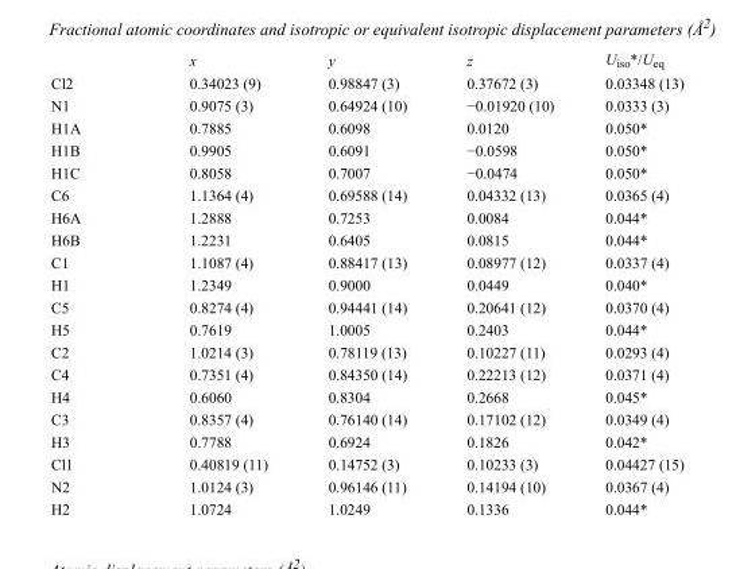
<table><thead><tr><td></td><td>x</td><td>y</td><td>z</td><td>U<sub>iso</sub>*/U<sub>eq</sub></td></tr></thead><tbody><tr><td>Cl2</td><td>0.34023 (9)</td><td>0.98847 (3)</td><td>0.37672 (3)</td><td>0.03348 (13)</td></tr><tr><td>N1</td><td>0.9075 (3)</td><td>0.64924 (10)</td><td>−0.01920 (10)</td><td>0.0333 (3)</td></tr><tr><td>H1A</td><td>0.7885</td><td>0.6098</td><td>0.0120</td><td>0.050*</td></tr><tr><td>H1B</td><td>0.9905</td><td>0.6091</td><td>−0.0598</td><td>0.050*</td></tr><tr><td>H1C</td><td>0.8058</td><td>0.7007</td><td>−0.0474</td><td>0.050*</td></tr><tr><td>C6</td><td>1.1364 (4)</td><td>0.69588 (14)</td><td>0.04332 (13)</td><td>0.0365 (4)</td></tr><tr><td>H6A</td><td>1.2888</td><td>0.7253</td><td>0.0084</td><td>0.044*</td></tr><tr><td>H6B</td><td>1.2231</td><td>0.6405</td><td>0.0815</td><td>0.044*</td></tr><tr><td>C1</td><td>1.1087 (4)</td><td>0.88417 (13)</td><td>0.08977 (12)</td><td>0.0337 (4)</td></tr><tr><td>H1</td><td>1.2349</td><td>0.9000</td><td>0.0449</td><td>0.040*</td></tr><tr><td>C5</td><td>0.8274 (4)</td><td>0.94441 (14)</td><td>0.20641 (12)</td><td>0.0370 (4)</td></tr><tr><td>H5</td><td>0.7619</td><td>1.0005</td><td>0.2403</td><td>0.044*</td></tr><tr><td>C2</td><td>1.0214 (3)</td><td>0.78119 (13)</td><td>0.10227 (11)</td><td>0.0293 (4)</td></tr><tr><td>C4</td><td>0.7351 (4)</td><td>0.84350 (14)</td><td>0.22213 (12)</td><td>0.0371 (4)</td></tr><tr><td>H4</td><td>0.6060</td><td>0.8304</td><td>0.2668</td><td>0.045*</td></tr><tr><td>C3</td><td>0.8357 (4)</td><td>0.76140 (14)</td><td>0.17102 (12)</td><td>0.0349 (4)</td></tr><tr><td>H3</td><td>0.7788</td><td>0.6924</td><td>0.1826</td><td>0.042*</td></tr><tr><td>Cl1</td><td>0.40819 (11)</td><td>0.14752 (3)</td><td>0.10233 (3)</td><td>0.04427 (15)</td></tr><tr><td>N2</td><td>1.0124 (3)</td><td>0.96146 (11)</td><td>0.14194 (10)</td><td>0.0367 (4)</td></tr><tr><td>H2</td><td>1.0724</td><td>1.0249</td><td>0.1336</td><td>0.044*</td></tr></tbody></table>